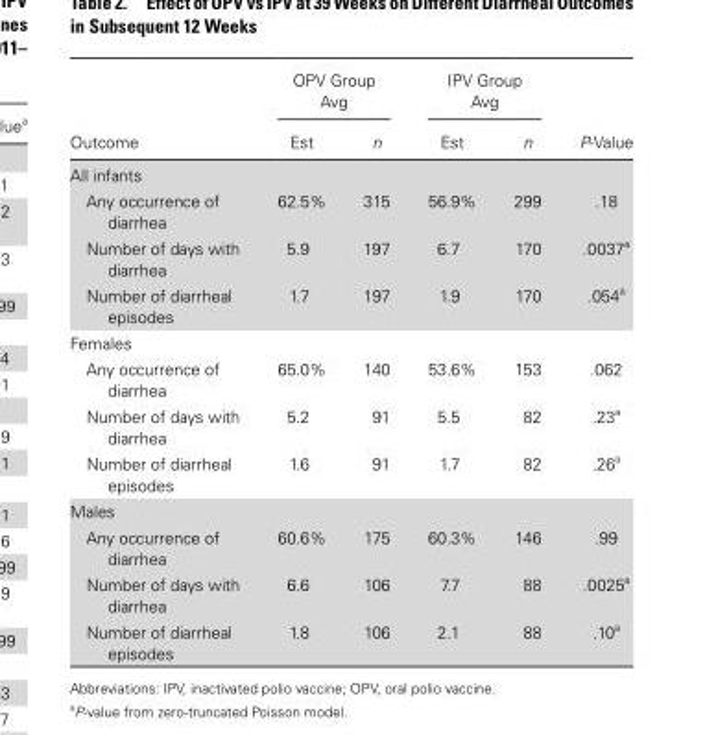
<table><thead><tr><td rowspan="2">Outcome</td><td colspan="2">OPV Group Avg</td><td colspan="2">IPV Group Avg</td><td rowspan="2">P-Value</td></tr><tr><td>Est</td><td>n</td><td>Est</td><td>n</td></tr></thead><tbody><tr><td colspan="6">All infants</td></tr><tr><td>Any occurrence of diarrhea</td><td>62.5%</td><td>315</td><td>56.9%</td><td>299</td><td>.18</td></tr><tr><td>Number of days with diarrhea</td><td>5.9</td><td>197</td><td>6.7</td><td>170</td><td>.0037<sup>a</sup></td></tr><tr><td>Number of diarrheal episodes</td><td>1.7</td><td>197</td><td>1.9</td><td>170</td><td>.054<sup>a</sup></td></tr><tr><td colspan="6">Females</td></tr><tr><td>Any occurrence of diarrhea</td><td>65.0%</td><td>140</td><td>53.6%</td><td>153</td><td>.062</td></tr><tr><td>Number of days with diarrhea</td><td>5.2</td><td>91</td><td>5.5</td><td>82</td><td>.23<sup>a</sup></td></tr><tr><td>Number of diarrheal episodes</td><td>1.6</td><td>91</td><td>1.7</td><td>82</td><td>.26<sup>a</sup></td></tr><tr><td colspan="6">Males</td></tr><tr><td>Any occurrence of diarrhea</td><td>60.6%</td><td>175</td><td>60.3%</td><td>146</td><td>.99</td></tr><tr><td>Number of days with diarrhea</td><td>6.6</td><td>106</td><td>7.7</td><td>88</td><td>.0025<sup>a</sup></td></tr><tr><td>Number of diarrheal episodes</td><td>1.8</td><td>106</td><td>2.1</td><td>88</td><td>.10<sup>a</sup></td></tr></tbody></table>